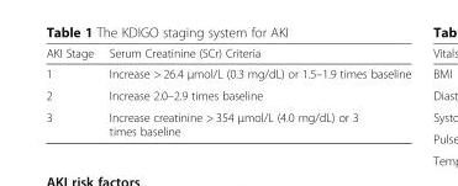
<table><thead><tr><td>AKI Stage</td><td>Serum Creatinine (SCr) Criteria</td></tr></thead><tbody><tr><td>1</td><td>Increase &gt; 26.4 μmol/L (0.3 mg/dL) or 1.5–1.9 times baseline</td></tr><tr><td>2</td><td>Increase 2.0–2.9 times baseline</td></tr><tr><td>3</td><td>Increase creatinine &gt; 354 μmol/L (4.0 mg/dL) or 3 times baseline</td></tr></tbody></table>